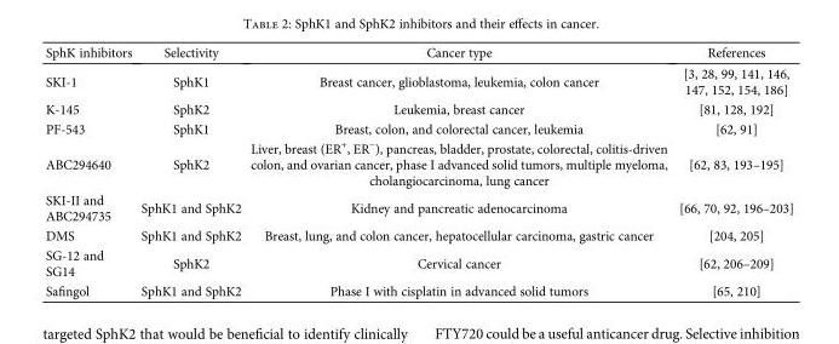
<table><thead><tr><td>SphK inhibitors</td><td>Selectivity</td><td>Cancer type</td><td>References</td></tr></thead><tbody><tr><td>SKI-1</td><td>SphK1</td><td>Breast cancer, glioblastoma, leukemia, colon cancer</td><td>[3, 28, 99, 141, 146, 147, 152, 154, 186]</td></tr><tr><td>K-145</td><td>SphK2</td><td>Leukemia, breast cancer</td><td>[81, 128, 192]</td></tr><tr><td>PF-543</td><td>SphK1</td><td>Breast, colon, and colorectal cancer, leukemia</td><td>[62, 91]</td></tr><tr><td>ABC294640</td><td>SphK2</td><td>Liver, breast (ER<sup>+</sup>, ER<sup>−</sup>), pancreas, bladder, prostate, colorectal, colitis-driven colon, and ovarian cancer, phase I advanced solid tumors, multiple myeloma, cholangiocarcinoma, lung cancer</td><td>[62, 83, 193–195]</td></tr><tr><td>SKI-II and ABC294735</td><td>SphK1 and SphK2</td><td>Kidney and pancreatic adenocarcinoma</td><td>[66, 70, 92, 196–203]</td></tr><tr><td>DMS</td><td>SphK1 and SphK2</td><td>Breast, lung, and colon cancer, hepatocellular carcinoma, gastric cancer</td><td>[204, 205]</td></tr><tr><td>SG-12 and SG14</td><td>SphK2</td><td>Cervical cancer</td><td>[62, 206–209]</td></tr><tr><td>Safingol</td><td>SphK1 and SphK2</td><td>Phase I with cisplatin in advanced solid tumors</td><td>[65, 210]</td></tr></tbody></table>